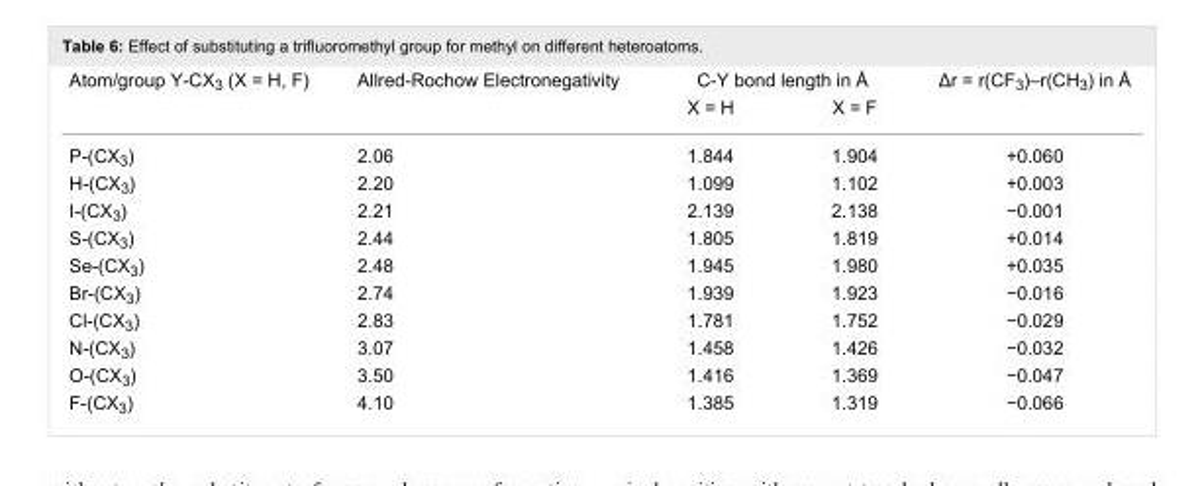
<table><tbody><tr><td rowspan="2">Atom/group Y-CX<sub>3</sub> (X = H, F)</td><td>Allred-Rochow Electronegativity</td><td colspan="2">C-Y bond length in Å</td><td>Δr = r(CF<sub>3</sub>)–r(CH<sub>3</sub>) in Å</td></tr><tr><td></td><td>X = H</td><td>X = F</td><td></td></tr><tr><td>P-(CX<sub>3</sub>)</td><td>2.06</td><td>1.844</td><td>1.904</td><td>+0.060</td></tr><tr><td>H-(CX<sub>3</sub>)</td><td>2.20</td><td>1.099</td><td>1.102</td><td>+0.003</td></tr><tr><td>I-(CX<sub>3</sub>)</td><td>2.21</td><td>2.139</td><td>2.138</td><td>−0.001</td></tr><tr><td>S-(CX<sub>3</sub>)</td><td>2.44</td><td>1.805</td><td>1.819</td><td>+0.014</td></tr><tr><td>Se-(CX<sub>3</sub>)</td><td>2.48</td><td>1.945</td><td>1.980</td><td>+0.035</td></tr><tr><td>Br-(CX<sub>3</sub>)</td><td>2.74</td><td>1.939</td><td>1.923</td><td>−0.016</td></tr><tr><td>Cl-(CX<sub>3</sub>)</td><td>2.83</td><td>1.781</td><td>1.752</td><td>−0.029</td></tr><tr><td>N-(CX<sub>3</sub>)</td><td>3.07</td><td>1.458</td><td>1.426</td><td>−0.032</td></tr><tr><td>O-(CX<sub>3</sub>)</td><td>3.50</td><td>1.416</td><td>1.369</td><td>−0.047</td></tr><tr><td>F-(CX<sub>3</sub>)</td><td>4.10</td><td>1.385</td><td>1.319</td><td>−0.066</td></tr></tbody></table>